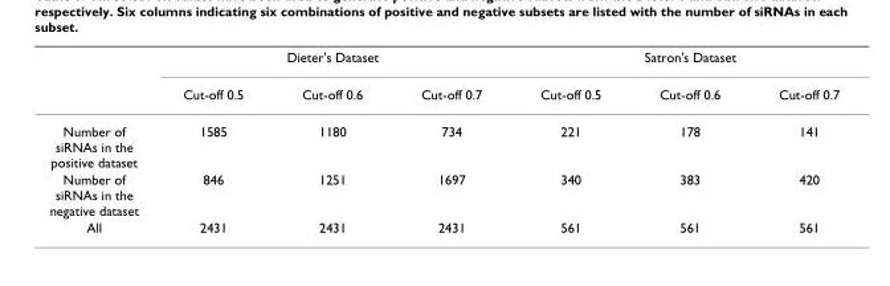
<table><thead><tr><td rowspan="2"></td><td colspan="3">Dieter&#x27;s Dataset</td><td colspan="3">Satron&#x27;s Dataset</td></tr><tr><td>Cut-off 0.5</td><td>Cut-off 0.6</td><td>Cut-off 0.7</td><td>Cut-off 0.5</td><td>Cut-off 0.6</td><td>Cut-off 0.7</td></tr></thead><tbody><tr><td>Number of siRNAs in the positive dataset</td><td>1585</td><td>1180</td><td>734</td><td>221</td><td>178</td><td>141</td></tr><tr><td>Number of siRNAs in the negative dataset</td><td>846</td><td>1251</td><td>1697</td><td>340</td><td>383</td><td>420</td></tr><tr><td>All</td><td>2431</td><td>2431</td><td>2431</td><td>561</td><td>561</td><td>561</td></tr></tbody></table>